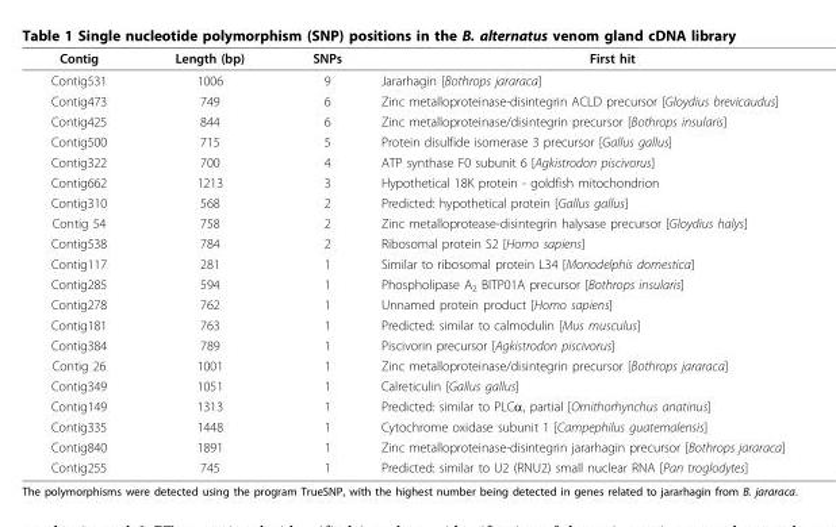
<table><thead><tr><td>Contig</td><td>Length (bp)</td><td>SNPs</td><td>First hit</td></tr></thead><tbody><tr><td>Contig531</td><td>1006</td><td>9</td><td>Jararhagin [Bothrops jararaca]</td></tr><tr><td>Contig473</td><td>749</td><td>6</td><td>Zinc metalloproteinase-disintegrin ACLD precursor [Gloydius brevicaudus]</td></tr><tr><td>Contig425</td><td>844</td><td>6</td><td>Zinc metalloproteinase/disintegrin precursor [Bothrops insularis]</td></tr><tr><td>Contig500</td><td>715</td><td>5</td><td>Protein disulfide isomerase 3 precursor [Gallus gallus]</td></tr><tr><td>Contig322</td><td>700</td><td>4</td><td>ATP synthase F0 subunit 6 [Agkistrodon piscivorus]</td></tr><tr><td>Contig662</td><td>1213</td><td>3</td><td>Hypothetical 18K protein - goldfish mitochondrion</td></tr><tr><td>Contig310</td><td>568</td><td>2</td><td>Predicted: hypothetical protein [Gallus gallus]</td></tr><tr><td>Contig 54</td><td>758</td><td>2</td><td>Zinc metalloprotease-disintegrin halysase precursor [Gloydius halys]</td></tr><tr><td>Contig538</td><td>784</td><td>2</td><td>Ribosomal protein S2 [Homo sapiens]</td></tr><tr><td>Contig117</td><td>281</td><td>1</td><td>Similar to ribosomal protein L34 [Monodelphis domestica]</td></tr><tr><td>Contig285</td><td>594</td><td>1</td><td>Phospholipase A<sub>2</sub> BITP01A precursor [Bothrops insularis]</td></tr><tr><td>Contig278</td><td>762</td><td>1</td><td>Unnamed protein product [Homo sapiens]</td></tr><tr><td>Contig181</td><td>763</td><td>1</td><td>Predicted: similar to calmodulin [Mus musculus]</td></tr><tr><td>Contig384</td><td>789</td><td>1</td><td>Piscivorin precursor [Agkistrodon piscivorus]</td></tr><tr><td>Contig 26</td><td>1001</td><td>1</td><td>Zinc metalloproteinase/disintegrin precursor [Bothrops jararaca]</td></tr><tr><td>Contig349</td><td>1051</td><td>1</td><td>Calreticulin [Gallus gallus]</td></tr><tr><td>Contig149</td><td>1313</td><td>1</td><td>Predicted: similar to PLCα, partial [Ornithorhynchus anatinus]</td></tr><tr><td>Contig335</td><td>1448</td><td>1</td><td>Cytochrome oxidase subunit 1 [Campephilus guatemalensis]</td></tr><tr><td>Contig840</td><td>1891</td><td>1</td><td>Zinc metalloproteinase-disintegrin jararhagin precursor [Bothrops jararaca]</td></tr><tr><td>Contig255</td><td>745</td><td>1</td><td>Predicted: similar to U2 (RNU2) small nuclear RNA [Pan troglodytes]</td></tr></tbody></table>